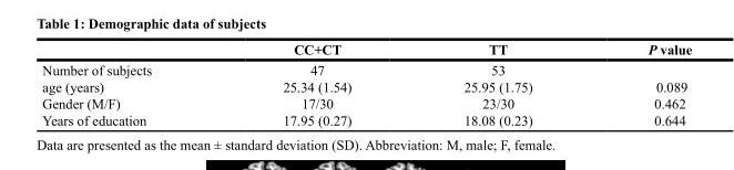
<table><thead><tr><td></td><td>CC+CT</td><td>TT</td><td>P value</td></tr></thead><tbody><tr><td>Number of subjects</td><td>47</td><td>53</td><td></td></tr><tr><td>age (years)</td><td>25.34 (1.54)</td><td>25.95 (1.75)</td><td>0.089</td></tr><tr><td>Gender (M/F)</td><td>17/30</td><td>23/30</td><td>0.462</td></tr><tr><td>Years of education</td><td>17.95 (0.27)</td><td>18.08 (0.23)</td><td>0.644</td></tr></tbody></table>